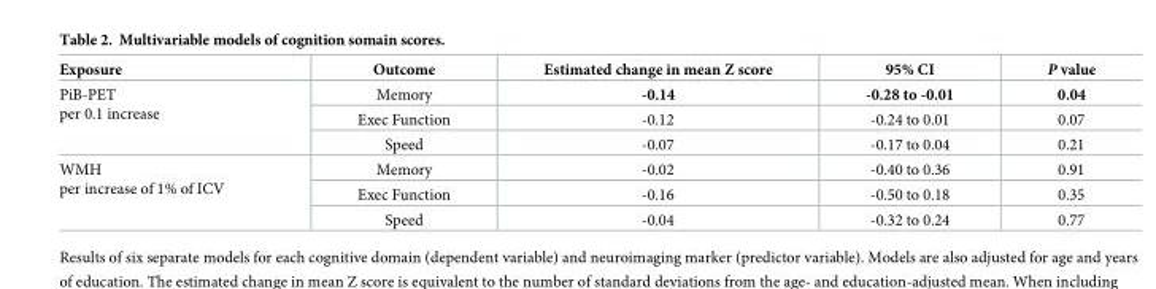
<table><thead><tr><td>Exposure</td><td>Outcome</td><td>Estimated change in mean Z score</td><td>95% CI</td><td>P value</td></tr></thead><tbody><tr><td rowspan="3">PiB-PET per 0.1 increase</td><td>Memory</td><td>-0.14</td><td>-0.28 to -0.01</td><td>0.04</td></tr><tr><td>Exec Function</td><td>-0.12</td><td>-0.24 to 0.01</td><td>0.07</td></tr><tr><td>Speed</td><td>-0.07</td><td>-0.17 to 0.04</td><td>0.21</td></tr><tr><td rowspan="3">WMH per increase of 1% of ICV</td><td>Memory</td><td>-0.02</td><td>-0.40 to 0.36</td><td>0.91</td></tr><tr><td>Exec Function</td><td>-0.16</td><td>-0.50 to 0.18</td><td>0.35</td></tr><tr><td>Speed</td><td>-0.04</td><td>-0.32 to 0.24</td><td>0.77</td></tr></tbody></table>